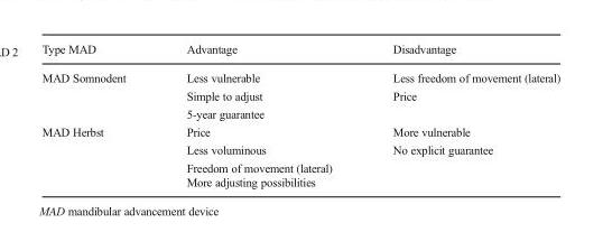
<table><thead><tr><td>Type MAD</td><td>Advantage</td><td>Disadvantage</td></tr></thead><tbody><tr><td rowspan="3">MAD Somnodent</td><td>Less vulnerable</td><td>Less freedom of movement (lateral)</td></tr><tr><td>Simple to adjust</td><td>Price</td></tr><tr><td>5-year guarantee</td><td></td></tr><tr><td rowspan="4">MAD Herbst</td><td>Price</td><td>More vulnerable</td></tr><tr><td>Less voluminous</td><td>No explicit guarantee</td></tr><tr><td>Freedom of movement (lateral)</td><td rowspan="2"></td></tr><tr><td>More adjusting possibilities</td></tr></tbody></table>